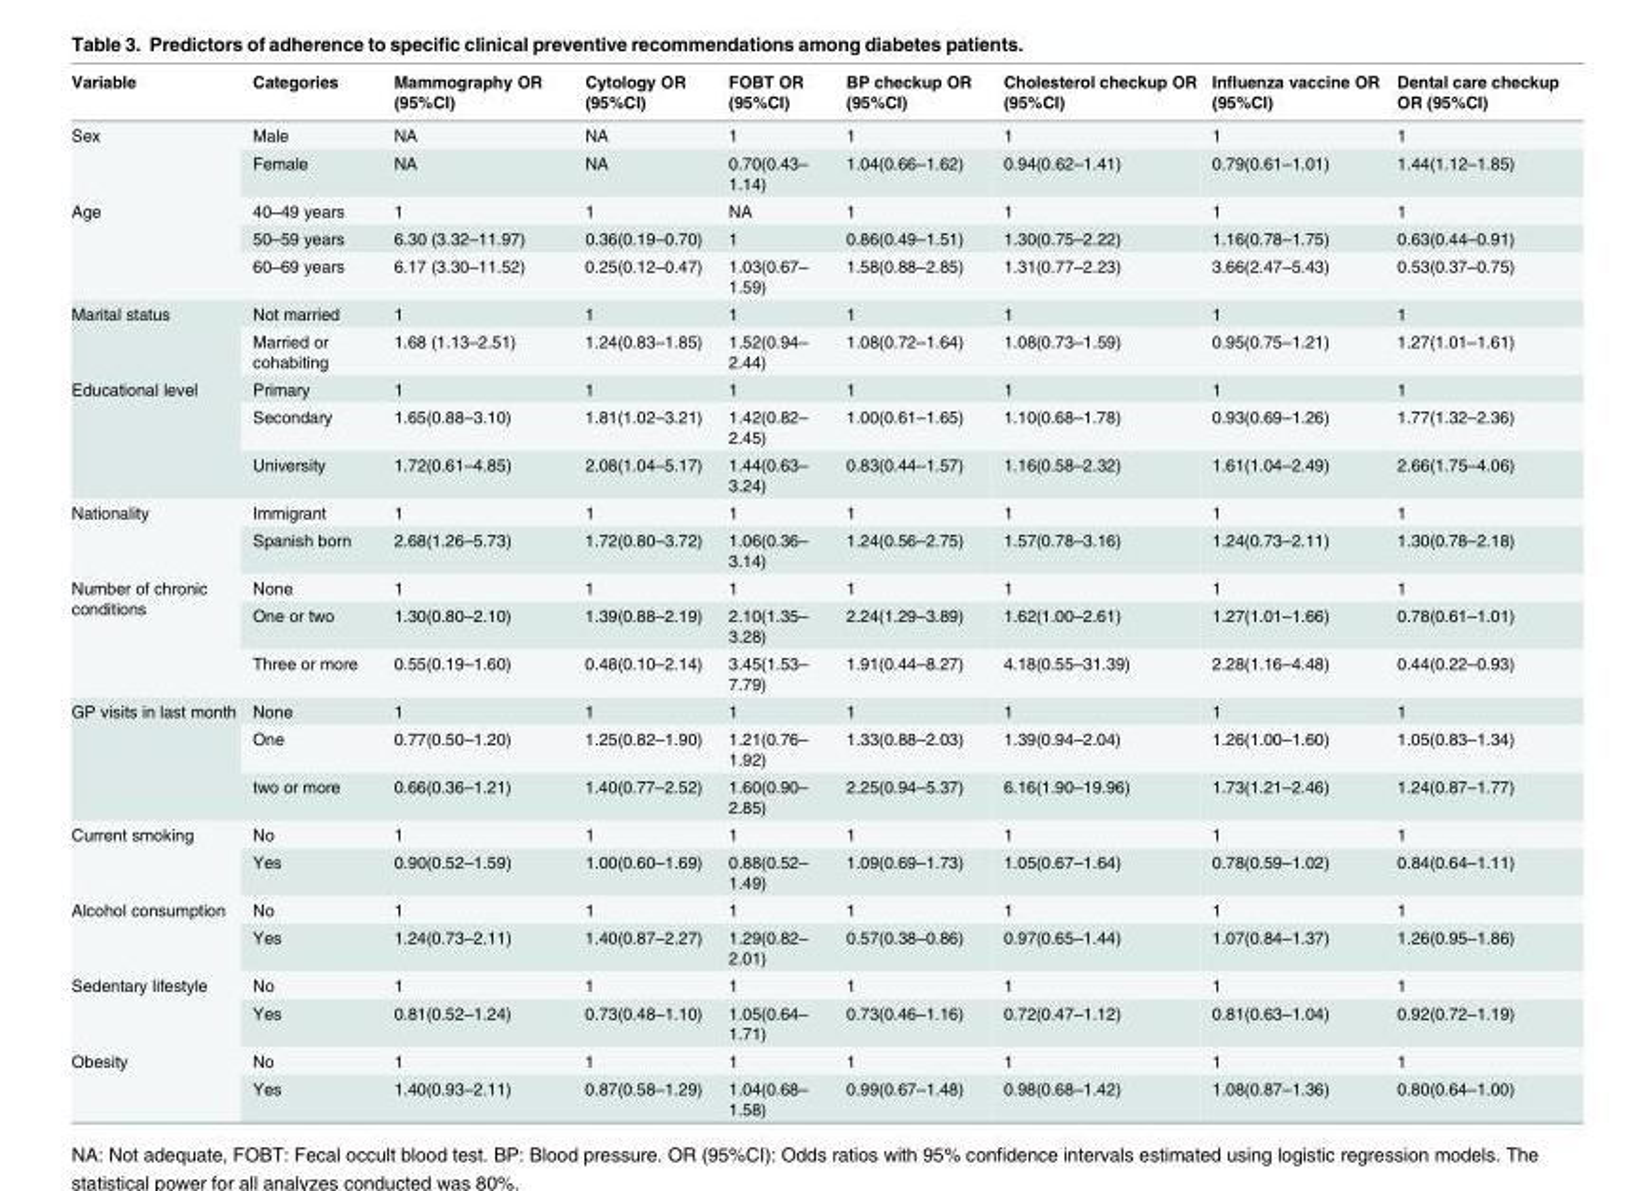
<table><thead><tr><td>Variable</td><td>Categories</td><td>Mammography OR (95%CI)</td><td>Cytology OR (95%CI)</td><td>FOBT OR (95%CI)</td><td>BP checkup OR (95%CI)</td><td>Cholesterol checkup OR (95%CI)</td><td>Influenza vaccine OR (95%CI)</td><td>Dental care checkup OR (95%CI)</td></tr></thead><tbody><tr><td rowspan="2">Sex</td><td>Male</td><td>NA</td><td>NA</td><td>1</td><td>1</td><td>1</td><td>1</td><td>1</td></tr><tr><td>Female</td><td>NA</td><td>NA</td><td>0.70(0.43– 1.14)</td><td>1.04(0.66–1.62)</td><td>0.94(0.62–1.41)</td><td>0.79(0.61–1.01)</td><td>1.44(1.12–1.85)</td></tr><tr><td rowspan="3">Age</td><td>40–49 years</td><td>1</td><td>1</td><td>NA</td><td>1</td><td>1</td><td>1</td><td>1</td></tr><tr><td>50–59 years</td><td>6.30 (3.32–11.97)</td><td>0.36(0.19–0.70)</td><td>1</td><td>0.86(0.49–1.51)</td><td>1.30(0.75–2.22)</td><td>1.16(0.78–1.75)</td><td>0.63(0.44–0.91)</td></tr><tr><td>60–69 years</td><td>6.17 (3.30–11.52)</td><td>0.25(0.12–0.47)</td><td>1.03(0.67– 1.59)</td><td>1.58(0.88–2.85)</td><td>1.31(0.77–2.23)</td><td>3.66(2.47–5.43)</td><td>0.53(0.37–0.75)</td></tr><tr><td rowspan="2">Marital status</td><td>Not married</td><td>1</td><td>1</td><td>1</td><td>1</td><td>1</td><td>1</td><td>1</td></tr><tr><td>Married or cohabiting</td><td>1.68 (1.13–2.51)</td><td>1.24(0.83–1.85)</td><td>1.52(0.94– 2.44)</td><td>1.08(0.72–1.64)</td><td>1.08(0.73–1.59)</td><td>0.95(0.75–1.21)</td><td>1.27(1.01–1.61)</td></tr><tr><td rowspan="3">Educational level</td><td>Primary</td><td>1</td><td>1</td><td>1</td><td>1</td><td>1</td><td>1</td><td>1</td></tr><tr><td>Secondary</td><td>1.65(0.88–3.10)</td><td>1.81(1.02–3.21)</td><td>1.42(0.82– 2.45)</td><td>1.00(0.61–1.65)</td><td>1.10(0.68–1.78)</td><td>0.93(0.69–1.26)</td><td>1.77(1.32–2.36)</td></tr><tr><td>University</td><td>1.72(0.61–4.85)</td><td>2.08(1.04–5.17)</td><td>1.44(0.63– 3.24)</td><td>0.83(0.44–1.57)</td><td>1.16(0.58–2.32)</td><td>1.61(1.04–2.49)</td><td>2.66(1.75–4.06)</td></tr><tr><td rowspan="2">Nationality</td><td>Immigrant</td><td>1</td><td>1</td><td>1</td><td>1</td><td>1</td><td>1</td><td>1</td></tr><tr><td>Spanish born</td><td>2.68(1.26–5.73)</td><td>1.72(0.80–3.72)</td><td>1.06(0.36– 3.14)</td><td>1.24(0.56–2.75)</td><td>1.57(0.78–3.16)</td><td>1.24(0.73–2.11)</td><td>1.30(0.78–2.18)</td></tr><tr><td rowspan="3">Number of chronic conditions</td><td>None</td><td>1</td><td>1</td><td>1</td><td>1</td><td>1</td><td>1</td><td>1</td></tr><tr><td>One or two</td><td>1.30(0.80–2.10)</td><td>1.39(0.88–2.19)</td><td>2.10(1.35– 3.28)</td><td>2.24(1.29–3.89)</td><td>1.62(1.00–2.61)</td><td>1.27(1.01–1.66)</td><td>0.78(0.61–1.01)</td></tr><tr><td>Three or more</td><td>0.55(0.19–1.60)</td><td>0.48(0.10–2.14)</td><td>3.45(1.53– 7.79)</td><td>1.91(0.44–8.27)</td><td>4.18(0.55–31.39)</td><td>2.28(1.16–4.48)</td><td>0.44(0.22–0.93)</td></tr><tr><td rowspan="3">GP visits in last month</td><td>None</td><td>1</td><td>1</td><td>1</td><td>1</td><td>1</td><td>1</td><td>1</td></tr><tr><td>One</td><td>0.77(0.50–1.20)</td><td>1.25(0.82–1.90)</td><td>1.21(0.76– 1.92)</td><td>1.33(0.88–2.03)</td><td>1.39(0.94–2.04)</td><td>1.26(1.00–1.60)</td><td>1.05(0.83–1.34)</td></tr><tr><td>two or more</td><td>0.66(0.36–1.21)</td><td>1.40(0.77–2.52)</td><td>1.60(0.90– 2.85)</td><td>2.25(0.94–5.37)</td><td>6.16(1.90–19.96)</td><td>1.73(1.21–2.46)</td><td>1.24(0.87–1.77)</td></tr><tr><td rowspan="2">Current smoking</td><td>No</td><td>1</td><td>1</td><td>1</td><td>1</td><td>1</td><td>1</td><td>1</td></tr><tr><td>Yes</td><td>0.90(0.52–1.59)</td><td>1.00(0.60–1.69)</td><td>0.88(0.52– 1.49)</td><td>1.09(0.69–1.73)</td><td>1.05(0.67–1.64)</td><td>0.78(0.59–1.02)</td><td>0.84(0.64–1.11)</td></tr><tr><td rowspan="2">Alcohol consumption</td><td>No</td><td>1</td><td>1</td><td>1</td><td>1</td><td>1</td><td>1</td><td>1</td></tr><tr><td>Yes</td><td>1.24(0.73–2.11)</td><td>1.40(0.87–2.27)</td><td>1.29(0.82– 2.01)</td><td>0.57(0.38–0.86)</td><td>0.97(0.65–1.44)</td><td>1.07(0.84–1.37)</td><td>1.26(0.95–1.86)</td></tr><tr><td rowspan="2">Sedentary lifestyle</td><td>No</td><td>1</td><td>1</td><td>1</td><td>1</td><td>1</td><td>1</td><td>1</td></tr><tr><td>Yes</td><td>0.81(0.52–1.24)</td><td>0.73(0.48–1.10)</td><td>1.05(0.64– 1.71)</td><td>0.73(0.46–1.16)</td><td>0.72(0.47–1.12)</td><td>0.81(0.63–1.04)</td><td>0.92(0.72–1.19)</td></tr><tr><td rowspan="2">Obesity</td><td>No</td><td>1</td><td>1</td><td>1</td><td>1</td><td>1</td><td>1</td><td>1</td></tr><tr><td>Yes</td><td>1.40(0.93–2.11)</td><td>0.87(0.58–1.29)</td><td>1.04(0.68– 1.58)</td><td>0.99(0.67–1.48)</td><td>0.98(0.68–1.42)</td><td>1.08(0.87–1.36)</td><td>0.80(0.64–1.00)</td></tr></tbody></table>